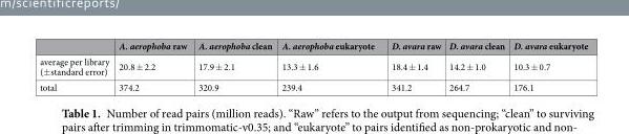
<table><thead><tr><td></td><td>A. aerophoba raw</td><td>A. aerophoba clean</td><td>A. aerophoba eukaryote</td><td>D. avara raw</td><td>D. avara clean</td><td>D. avara eukaryote</td></tr></thead><tbody><tr><td>average per library (±standard error)</td><td>20.8 ± 2.2</td><td>17.9 ± 2.1</td><td>13.3 ± 1.6</td><td>18.4 ± 1.4</td><td>14.2 ± 1.0</td><td>10.3 ± 0.7</td></tr><tr><td>total</td><td>374.2</td><td>320.9</td><td>239.4</td><td>341.2</td><td>264.7</td><td>176.1</td></tr></tbody></table>